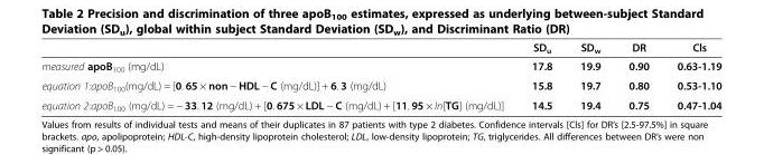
<table><thead><tr><td></td><td>SD<sub>u</sub></td><td>SD<sub>w</sub></td><td>DR</td><td>Cls</td></tr></thead><tbody><tr><td>measured apoB<sub>100</sub> (mg/dL)</td><td>17.8</td><td>19.9</td><td>0.90</td><td>0.63-1.19</td></tr><tr><td>equation 1:apoB<sub>100</sub>(mg/dL) = [0. 65 × non − HDL − C (mg/dL)] + 6. 3 (mg/dL)</td><td>15.8</td><td>19.7</td><td>0.80</td><td>0.53-1.10</td></tr><tr><td>equation 2:apoB<sub>100</sub> (mg/dL) = − 33. 12 (mg/dL) + [0. 675 × LDL − C (mg/dL) + [11. 95 × ln[TG] (mg/dL)]</td><td>14.5</td><td>19.4</td><td>0.75</td><td>0.47-1.04</td></tr></tbody></table>